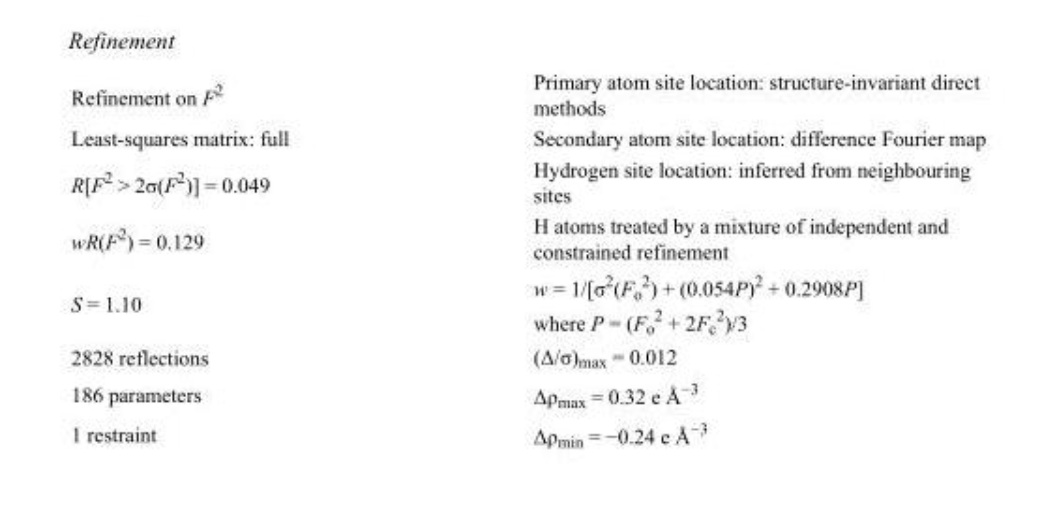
<table><tbody><tr><td>Refinement on F<sup>2</sup></td><td>Primary atom site location: structure-invariant direct methods</td></tr><tr><td>Least-squares matrix: full</td><td>Secondary atom site location: difference Fourier map</td></tr><tr><td>R[F<sup>2</sup> &gt; 2σ(F<sup>2</sup>)] = 0.049</td><td>Hydrogen site location: inferred from neighbouring sites</td></tr><tr><td>wR(F<sup>2</sup>) = 0.129</td><td>H atoms treated by a mixture of independent and constrained refinement</td></tr><tr><td>S = 1.10</td><td>w = 1/[σ<sup>2</sup>(F<sub>o</sub> <sup>2</sup>) + (0.054P)<sup>2</sup> + 0.2908P] where P = (F<sub>o</sub> <sup>2</sup> + 2F<sub>c</sub> <sup>2</sup>)/3</td></tr><tr><td>2828 reflections</td><td>(Δ/σ)<sub>max</sub> = 0.012</td></tr><tr><td>186 parameters</td><td>Δρ<sub>max</sub> = 0.32 e Å<sup>−3</sup></td></tr><tr><td>1 restraint</td><td>Δρ<sub>min</sub> = −0.24 e Å<sup>−3</sup></td></tr></tbody></table>